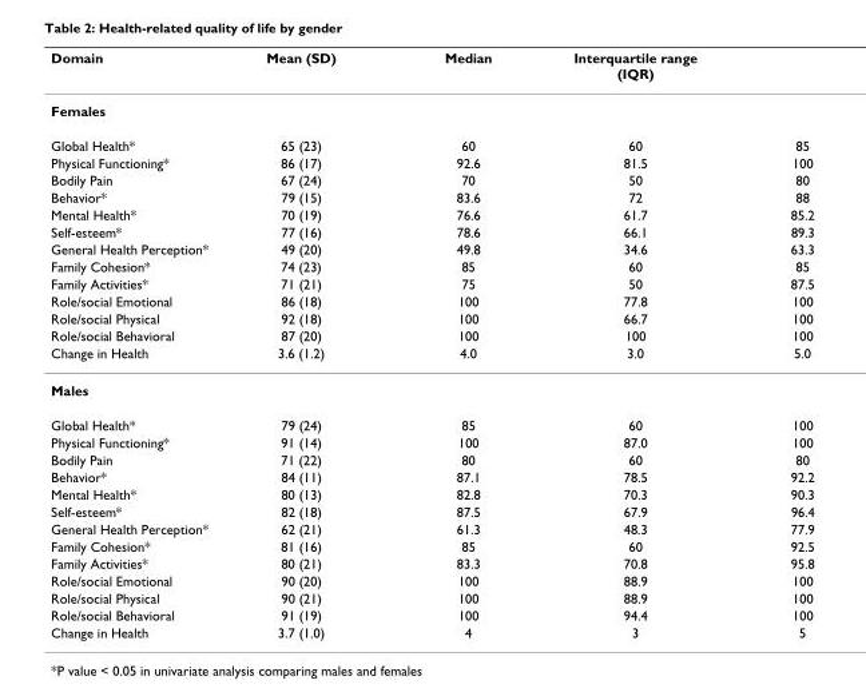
<table><thead><tr><td>Domain</td><td>Mean (SD)</td><td>Median</td><td>Interquartile range (IQR)</td><td></td></tr></thead><tbody><tr><td colspan="5">Females</td></tr><tr><td>Global Health*</td><td>65 (23)</td><td>60</td><td>60</td><td>85</td></tr><tr><td>Physical Functioning*</td><td>86 (17)</td><td>92.6</td><td>81.5</td><td>100</td></tr><tr><td>Bodily Pain</td><td>67 (24)</td><td>70</td><td>50</td><td>80</td></tr><tr><td>Behavior*</td><td>79 (15)</td><td>83.6</td><td>72</td><td>88</td></tr><tr><td>Mental Health*</td><td>70 (19)</td><td>76.6</td><td>61.7</td><td>85.2</td></tr><tr><td>Self-esteem*</td><td>77 (16)</td><td>78.6</td><td>66.1</td><td>89.3</td></tr><tr><td>General Health Perception*</td><td>49 (20)</td><td>49.8</td><td>34.6</td><td>63.3</td></tr><tr><td>Family Cohesion*</td><td>74 (23)</td><td>85</td><td>60</td><td>85</td></tr><tr><td>Family Activities*</td><td>71 (21)</td><td>75</td><td>50</td><td>87.5</td></tr><tr><td>Role/social Emotional</td><td>86 (18)</td><td>100</td><td>77.8</td><td>100</td></tr><tr><td>Role/social Physical</td><td>92 (18)</td><td>100</td><td>66.7</td><td>100</td></tr><tr><td>Role/social Behavioral</td><td>87 (20)</td><td>100</td><td>100</td><td>100</td></tr><tr><td>Change in Health</td><td>3.6 (1.2)</td><td>4.0</td><td>3.0</td><td>5.0</td></tr><tr><td colspan="5">Males</td></tr><tr><td>Global Health*</td><td>79 (24)</td><td>85</td><td>60</td><td>100</td></tr><tr><td>Physical Functioning*</td><td>91 (14)</td><td>100</td><td>87.0</td><td>100</td></tr><tr><td>Bodily Pain</td><td>71 (22)</td><td>80</td><td>60</td><td>80</td></tr><tr><td>Behavior*</td><td>84 (11)</td><td>87.1</td><td>78.5</td><td>92.2</td></tr><tr><td>Mental Health*</td><td>80 (13)</td><td>82.8</td><td>70.3</td><td>90.3</td></tr><tr><td>Self-esteem*</td><td>82 (18)</td><td>87.5</td><td>67.9</td><td>96.4</td></tr><tr><td>General Health Perception*</td><td>62 (21)</td><td>61.3</td><td>48.3</td><td>77.9</td></tr><tr><td>Family Cohesion*</td><td>81 (16)</td><td>85</td><td>60</td><td>92.5</td></tr><tr><td>Family Activities*</td><td>80 (21)</td><td>83.3</td><td>70.8</td><td>95.8</td></tr><tr><td>Role/social Emotional</td><td>90 (20)</td><td>100</td><td>88.9</td><td>100</td></tr><tr><td>Role/social Physical</td><td>90 (21)</td><td>100</td><td>88.9</td><td>100</td></tr><tr><td>Role/social Behavioral</td><td>91 (19)</td><td>100</td><td>94.4</td><td>100</td></tr><tr><td>Change in Health</td><td>3.7 (1.0)</td><td>4</td><td>3</td><td>5</td></tr></tbody></table>